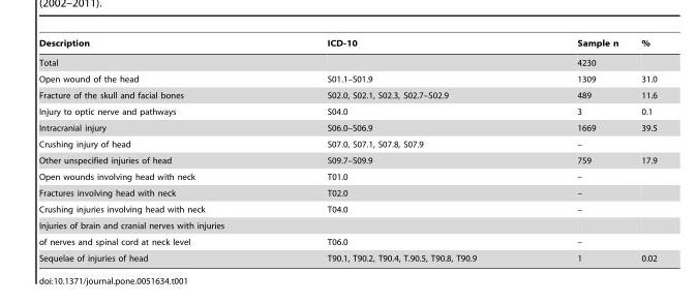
<table><thead><tr><td>Description</td><td>ICD-10</td><td>Sample n</td><td>%</td></tr></thead><tbody><tr><td>Total</td><td></td><td>4230</td><td></td></tr><tr><td>Open wound of the head</td><td>S01.1–S01.9</td><td>1309</td><td>31.0</td></tr><tr><td>Fracture of the skull and facial bones</td><td>S02.0, S02.1, S02.3, S02.7–S02.9</td><td>489</td><td>11.6</td></tr><tr><td>Injury to optic nerve and pathways</td><td>S04.0</td><td>3</td><td>0.1</td></tr><tr><td>Intracranial injury</td><td>S06.0–S06.9</td><td>1669</td><td>39.5</td></tr><tr><td>Crushing injury of head</td><td>S07.0, S07.1, S07.8, S07.9</td><td>–</td><td></td></tr><tr><td>Other unspecified injuries of head</td><td>S09.7–S09.9</td><td>759</td><td>17.9</td></tr><tr><td>Open wounds involving head with neck</td><td>T01.0</td><td>–</td><td></td></tr><tr><td>Fractures involving head with neck</td><td>T02.0</td><td>–</td><td></td></tr><tr><td>Crushing injuries involving head with neck</td><td>T04.0</td><td>–</td><td></td></tr><tr><td colspan="4">Injuries of brain and cranial nerves with injuries</td></tr><tr><td>of nerves and spinal cord at neck level</td><td>T06.0</td><td>–</td><td></td></tr><tr><td>Sequelae of injuries of head</td><td>T90.1, T90.2, T90.4, T.90.5, T90.8, T90.9</td><td>1</td><td>0.02</td></tr></tbody></table>